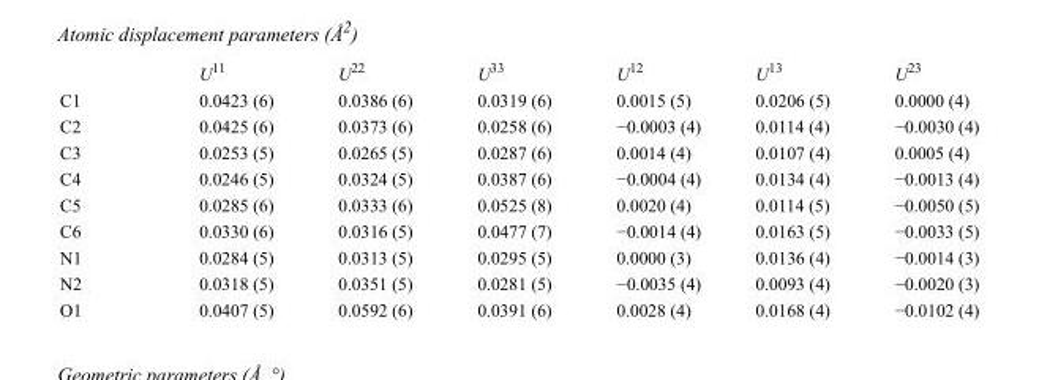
<table><thead><tr><td></td><td>U<sup>11</sup></td><td>U<sup>22</sup></td><td>U<sup>33</sup></td><td>U<sup>12</sup></td><td>U<sup>13</sup></td><td>U<sup>23</sup></td></tr></thead><tbody><tr><td>C1</td><td>0.0423 (6)</td><td>0.0386 (6)</td><td>0.0319 (6)</td><td>0.0015 (5)</td><td>0.0206 (5)</td><td>0.0000 (4)</td></tr><tr><td>C2</td><td>0.0425 (6)</td><td>0.0373 (6)</td><td>0.0258 (6)</td><td>−0.0003 (4)</td><td>0.0114 (4)</td><td>−0.0030 (4)</td></tr><tr><td>C3</td><td>0.0253 (5)</td><td>0.0265 (5)</td><td>0.0287 (6)</td><td>0.0014 (4)</td><td>0.0107 (4)</td><td>0.0005 (4)</td></tr><tr><td>C4</td><td>0.0246 (5)</td><td>0.0324 (5)</td><td>0.0387 (6)</td><td>−0.0004 (4)</td><td>0.0134 (4)</td><td>−0.0013 (4)</td></tr><tr><td>C5</td><td>0.0285 (6)</td><td>0.0333 (6)</td><td>0.0525 (8)</td><td>0.0020 (4)</td><td>0.0114 (5)</td><td>−0.0050 (5)</td></tr><tr><td>C6</td><td>0.0330 (6)</td><td>0.0316 (5)</td><td>0.0477 (7)</td><td>−0.0014 (4)</td><td>0.0163 (5)</td><td>−0.0033 (5)</td></tr><tr><td>N1</td><td>0.0284 (5)</td><td>0.0313 (5)</td><td>0.0295 (5)</td><td>0.0000 (3)</td><td>0.0136 (4)</td><td>−0.0014 (3)</td></tr><tr><td>N2</td><td>0.0318 (5)</td><td>0.0351 (5)</td><td>0.0281 (5)</td><td>−0.0035 (4)</td><td>0.0093 (4)</td><td>−0.0020 (3)</td></tr><tr><td>O1</td><td>0.0407 (5)</td><td>0.0592 (6)</td><td>0.0391 (6)</td><td>0.0028 (4)</td><td>0.0168 (4)</td><td>−0.0102 (4)</td></tr></tbody></table>